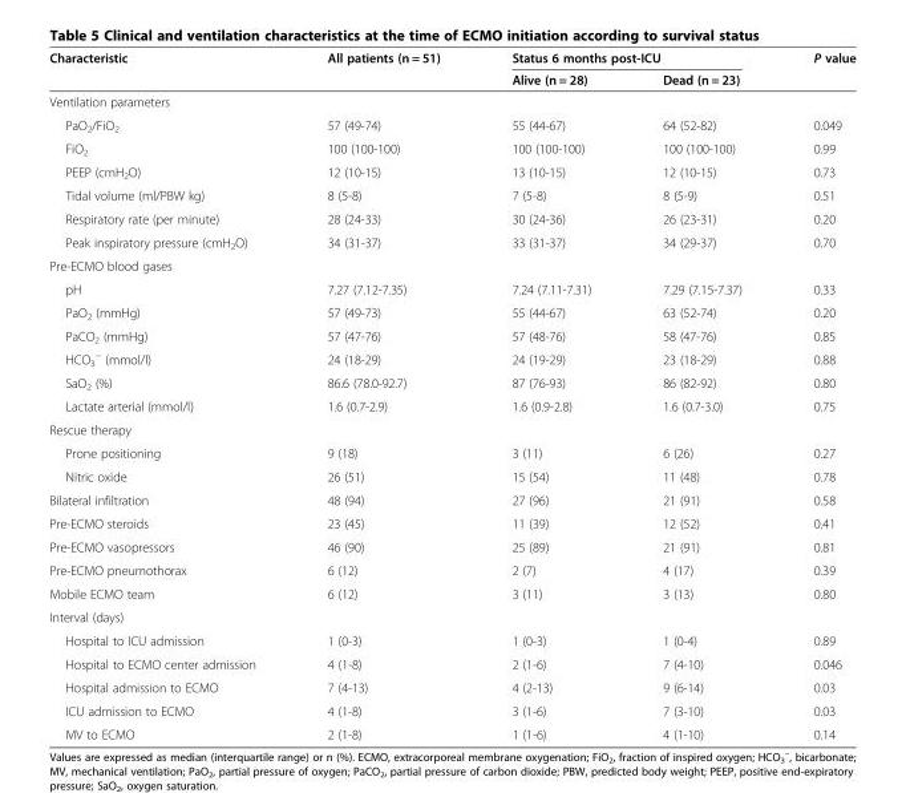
<table><thead><tr><td rowspan="2">Characteristic</td><td rowspan="2">All patients (n = 51)</td><td colspan="2">Status 6 months post-ICU</td><td rowspan="2">P value</td></tr><tr><td>Alive (n = 28)</td><td>Dead (n = 23)</td></tr></thead><tbody><tr><td colspan="5">Ventilation parameters</td></tr><tr><td>PaO<sub>2</sub>/FiO<sub>2</sub></td><td>57 (49-74)</td><td>55 (44-67)</td><td>64 (52-82)</td><td>0.049</td></tr><tr><td>FiO<sub>2</sub></td><td>100 (100-100)</td><td>100 (100-100)</td><td>100 (100-100)</td><td>0.99</td></tr><tr><td>PEEP (cmH<sub>2</sub>O)</td><td>12 (10-15)</td><td>13 (10-15)</td><td>12 (10-15)</td><td>0.73</td></tr><tr><td>Tidal volume (ml/PBW kg)</td><td>8 (5-8)</td><td>7 (5-8)</td><td>8 (5-9)</td><td>0.51</td></tr><tr><td>Respiratory rate (per minute)</td><td>28 (24-33)</td><td>30 (24-36)</td><td>26 (23-31)</td><td>0.20</td></tr><tr><td>Peak inspiratory pressure (cmH<sub>2</sub>O)</td><td>34 (31-37)</td><td>33 (31-37)</td><td>34 (29-37)</td><td>0.70</td></tr><tr><td colspan="5">Pre-ECMO blood gases</td></tr><tr><td>pH</td><td>7.27 (7.12-7.35)</td><td>7.24 (7.11-7.31)</td><td>7.29 (7.15-7.37)</td><td>0.33</td></tr><tr><td>PaO<sub>2</sub> (mmHg)</td><td>57 (49-73)</td><td>55 (44-67)</td><td>63 (52-74)</td><td>0.20</td></tr><tr><td>PaCO<sub>2</sub> (mmHg)</td><td>57 (47-76)</td><td>57 (48-76)</td><td>58 (47-76)</td><td>0.85</td></tr><tr><td>HCO<sub>3</sub> <sup>−</sup> (mmol/l)</td><td>24 (18-29)</td><td>24 (19-29)</td><td>23 (18-29)</td><td>0.88</td></tr><tr><td>SaO<sub>2</sub> (%)</td><td>86.6 (78.0-92.7)</td><td>87 (76-93)</td><td>86 (82-92)</td><td>0.80</td></tr><tr><td>Lactate arterial (mmol/l)</td><td>1.6 (0.7-2.9)</td><td>1.6 (0.9-2.8)</td><td>1.6 (0.7-3.0)</td><td>0.75</td></tr><tr><td colspan="5">Rescue therapy</td></tr><tr><td>Prone positioning</td><td>9 (18)</td><td>3 (11)</td><td>6 (26)</td><td>0.27</td></tr><tr><td>Nitric oxide</td><td>26 (51)</td><td>15 (54)</td><td>11 (48)</td><td>0.78</td></tr><tr><td>Bilateral infiltration</td><td>48 (94)</td><td>27 (96)</td><td>21 (91)</td><td>0.58</td></tr><tr><td>Pre-ECMO steroids</td><td>23 (45)</td><td>11 (39)</td><td>12 (52)</td><td>0.41</td></tr><tr><td>Pre-ECMO vasopressors</td><td>46 (90)</td><td>25 (89)</td><td>21 (91)</td><td>0.81</td></tr><tr><td>Pre-ECMO pneumothorax</td><td>6 (12)</td><td>2 (7)</td><td>4 (17)</td><td>0.39</td></tr><tr><td>Mobile ECMO team</td><td>6 (12)</td><td>3 (11)</td><td>3 (13)</td><td>0.80</td></tr><tr><td colspan="5">Interval (days)</td></tr><tr><td>Hospital to ICU admission</td><td>1 (0-3)</td><td>1 (0-3)</td><td>1 (0-4)</td><td>0.89</td></tr><tr><td>Hospital to ECMO center admission</td><td>4 (1-8)</td><td>2 (1-6)</td><td>7 (4-10)</td><td>0.046</td></tr><tr><td>Hospital admission to ECMO</td><td>7 (4-13)</td><td>4 (2-13)</td><td>9 (6-14)</td><td>0.03</td></tr><tr><td>ICU admission to ECMO</td><td>4 (1-8)</td><td>3 (1-6)</td><td>7 (3-10)</td><td>0.03</td></tr><tr><td>MV to ECMO</td><td>2 (1-8)</td><td>1 (1-6)</td><td>4 (1-10)</td><td>0.14</td></tr></tbody></table>